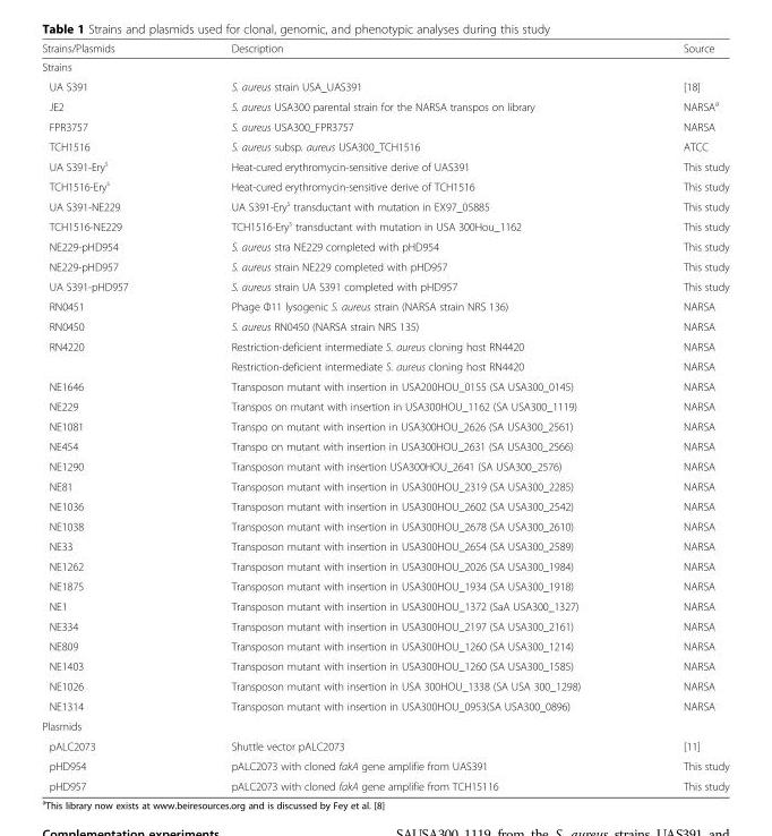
<table><thead><tr><td>Strains/Plasmids</td><td>Description</td><td>Source</td></tr></thead><tbody><tr><td colspan="3">Strains</td></tr><tr><td>UA S391</td><td>S. aureus strain USA_UAS391</td><td>[18]</td></tr><tr><td>JE2</td><td>S. aureus USA300 parental strain for the NARSA transpos on library</td><td>NARSA<sup>a</sup></td></tr><tr><td>FPR3757</td><td>S. aureus USA300_FPR3757</td><td>NARSA</td></tr><tr><td>TCH1516</td><td>S. aureus subsp. aureus USA300_TCH1516</td><td>ATCC</td></tr><tr><td>UA S391-Ery<sup>s</sup></td><td>Heat-cured erythromycin-sensitive derive of UAS391</td><td>This study</td></tr><tr><td>TCH1516-Ery<sup>s</sup></td><td>Heat-cured erythromycin-sensitive derive of TCH1516</td><td>This study</td></tr><tr><td>UA S391-NE229</td><td>UA S391-Ery<sup>s</sup> transductant with mutation in EX97_05885</td><td>This study</td></tr><tr><td>TCH1516-NE229</td><td>TCH1516-Ery<sup>s</sup> transductant with mutation in USA 300Hou_1162</td><td>This study</td></tr><tr><td>NE229-pHD954</td><td>S. aureus stra NE229 completed with pHD954</td><td>This study</td></tr><tr><td>NE229-pHD957</td><td>S. aureus strain NE229 completed with pHD957</td><td>This study</td></tr><tr><td>UA S391-pHD957</td><td>S. aureus strain UA S391 completed with pHD957</td><td>This study</td></tr><tr><td>RN0451</td><td>Phage Φ11 lysogenic S. aureus strain (NARSA strain NRS 136)</td><td>NARSA</td></tr><tr><td>RN0450</td><td>S. aureus RN0450 (NARSA strain NRS 135)</td><td>NARSA</td></tr><tr><td rowspan="2">RN4220</td><td>Restriction-deficient intermediate S. aureus cloning host RN4420</td><td>NARSA</td></tr><tr><td>Restriction-deficient intermediate S. aureus cloning host RN4420</td><td>NARSA</td></tr><tr><td>NE1646</td><td>Transposon mutant with insertion in USA200HOU_0155 (SA USA300_0145)</td><td>NARSA</td></tr><tr><td>NE229</td><td>Transpos on mutant with insertion in USA300HOU_1162 (SA USA300_1119)</td><td>NARSA</td></tr><tr><td>NE1081</td><td>Transpo on mutant with insertion in USA300HOU_2626 (SA USA300_2561)</td><td>NARSA</td></tr><tr><td>NE454</td><td>Transpo on mutant with insertion in USA300HOU_2631 (SA USA300_2566)</td><td>NARSA</td></tr><tr><td>NE1290</td><td>Transposon mutant with insertion USA300HOU_2641 (SA USA300_2576)</td><td>NARSA</td></tr><tr><td>NE81</td><td>Transposon mutant with insertion in USA300HOU_2319 (SA USA300_2285)</td><td>NARSA</td></tr><tr><td>NE1036</td><td>Transposon mutant with insertion in USA300HOU_2602 (SA USA300_2542)</td><td>NARSA</td></tr><tr><td>NE1038</td><td>Transposon mutant with insertion in USA300HOU_2678 (SA USA300_2610)</td><td>NARSA</td></tr><tr><td>NE33</td><td>Transposon mutant with insertion in USA300HOU_2654 (SA USA300_2589)</td><td>NARSA</td></tr><tr><td>NE1262</td><td>Transposon mutant with insertion in USA300HOU_2026 (SA USA300_1984)</td><td>NARSA</td></tr><tr><td>NE1875</td><td>Transposon mutant with insertion in USA300HOU_1934 (SA USA300_1918)</td><td>NARSA</td></tr><tr><td>NE1</td><td>Transposon mutant with insertion in USA300HOU_1372 (SaA USA300_1327)</td><td>NARSA</td></tr><tr><td>NE334</td><td>Transposon mutant with insertion in USA300HOU_2197 (SA USA300_2161)</td><td>NARSA</td></tr><tr><td>NE809</td><td>Transposon mutant with insertion in USA300HOU_1260 (SA USA300_1214)</td><td>NARSA</td></tr><tr><td>NE1403</td><td>Transposon mutant with insertion in USA300HOU_1260 (SA USA300_1585)</td><td>NARSA</td></tr><tr><td>NE1026</td><td>Transposon mutant with insertion in USA 300HOU_1338 (SA USA 300_1298)</td><td>NARSA</td></tr><tr><td>NE1314</td><td>Transposon mutant with insertion in USA300HOU_0953(SA USA300_0896)</td><td>NARSA</td></tr><tr><td colspan="3">Plasmids</td></tr><tr><td>pALC2073</td><td>Shuttle vector pALC2073</td><td>[11]</td></tr><tr><td>pHD954</td><td>pALC2073 with cloned fakA gene amplifie from UAS391</td><td>This study</td></tr><tr><td>pHD957</td><td>pALC2073 with cloned fakA gene amplifie from TCH15116</td><td>This study</td></tr></tbody></table>